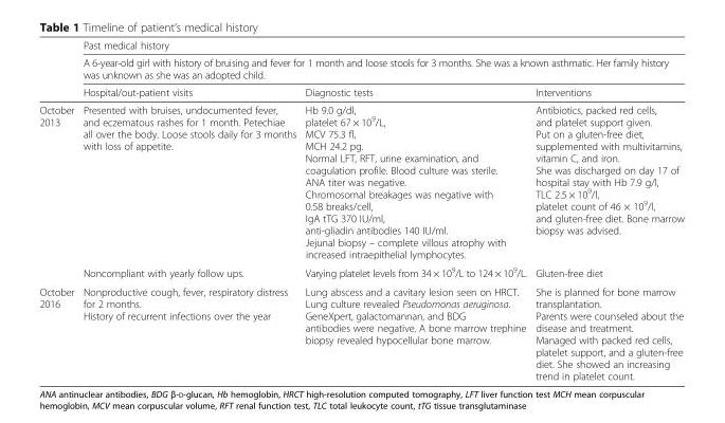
<table><thead><tr><td rowspan="3"></td><td rowspan="2" colspan="3">Past medical history A 6-year-old girl with history of bruising and fever for 1 month and loose stools for 3 months. She was a known asthmatic. Her family history was unknown as she was an adopted child.</td></tr><tr></tr><tr><td>Hospital/out-patient visits</td><td>Diagnostic tests</td><td>Interventions</td></tr></thead><tbody><tr><td rowspan="2">October 2013</td><td>Presented with bruises, undocumented fever, and eczematous rashes for 1 month. Petechiae all over the body. Loose stools daily for 3 months with loss of appetite.</td><td>Hb 9.0 g/dl, platelet 67 × 10<sup>9</sup>/L, MCV 75.3 fl, MCH 24.2 pg. Normal LFT, RFT, urine examination, and coagulation profile. Blood culture was sterile. ANA titer was negative. Chromosomal breakages was negative with 0.58 breaks/cell, IgA tTG 370 IU/ml, anti-gliadin antibodies 140 IU/ml. Jejunal biopsy – complete villous atrophy with increased intraepithelial lymphocytes.</td><td>Antibiotics, packed red cells, and platelet support given. Put on a gluten-free diet, supplemented with multivitamins, vitamin C, and iron. She was discharged on day 17 of hospital stay with Hb 7.9 g/l, TLC 2.5 × 10<sup>9</sup>/l, platelet count of 46 × 10<sup>9</sup>/l, and gluten-free diet. Bone marrow biopsy was advised.</td></tr><tr><td>Noncompliant with yearly follow ups.</td><td>Varying platelet levels from 34 × 10<sup>9</sup>/L to 124 × 10<sup>9</sup>/L.</td><td>Gluten-free diet</td></tr><tr><td>October 2016</td><td>Nonproductive cough, fever, respiratory distress for 2 months. History of recurrent infections over the year</td><td>Lung abscess and a cavitary lesion seen on HRCT. Lung culture revealed Pseudomonas aeruginosa. GeneXpert, galactomannan, and BDG antibodies were negative. A bone marrow trephine biopsy revealed hypocellular bone marrow.</td><td>She is planned for bone marrow transplantation. Parents were counseled about the disease and treatment. Managed with packed red cells, platelet support, and a gluten-free diet. She showed an increasing trend in platelet count.</td></tr></tbody></table>